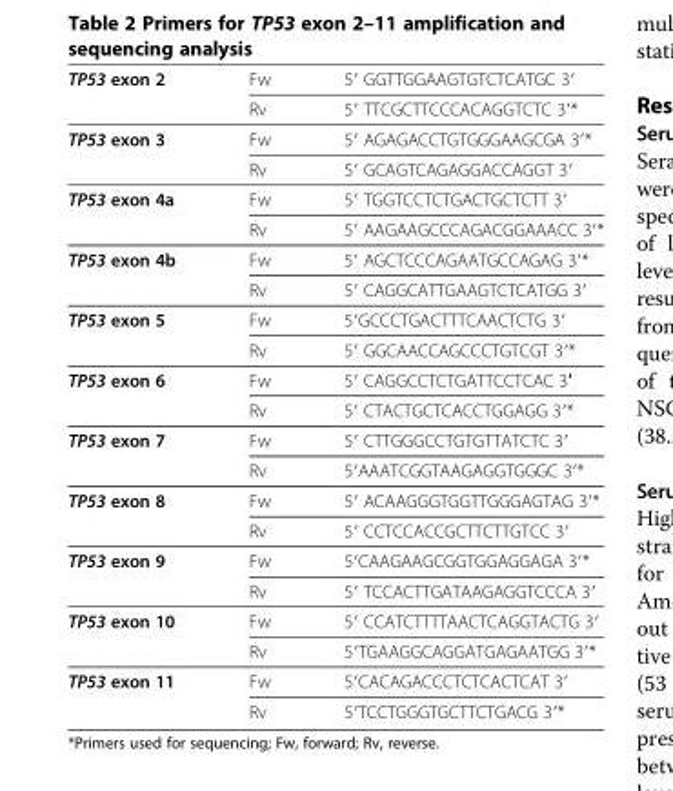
<table><tbody><tr><td rowspan="2">TP53 exon 2</td><td>Fw</td><td>5′ GGTTGGAAGTGTCTCATGC 3′</td></tr><tr><td>Rv</td><td>5′ TTCGCTTCCCACAGGTCTC 3′*</td></tr><tr><td rowspan="2">TP53 exon 3</td><td>Fw</td><td>5′ AGAGACCTGTGGGAAGCGA 3′*</td></tr><tr><td>Rv</td><td>5′ GCAGTCAGAGGACCAGGT 3′</td></tr><tr><td rowspan="2">TP53 exon 4a</td><td>Fw</td><td>5′ TGGTCCTCTGACTGCTCTT 3′</td></tr><tr><td>Rv</td><td>5′ AAGAAGCCCAGACGGAAACC 3′*</td></tr><tr><td rowspan="2">TP53 exon 4b</td><td>Fw</td><td>5′ AGCTCCCAGAATGCCAGAG 3′*</td></tr><tr><td>Rv</td><td>5′ CAGGCATTGAAGTCTCATGG 3′</td></tr><tr><td rowspan="2">TP53 exon 5</td><td>Fw</td><td>5′GCCCTGACTTTCAACTCTG 3′</td></tr><tr><td>Rv</td><td>5′ GGCAACCAGCCCTGTCGT 3′*</td></tr><tr><td rowspan="2">TP53 exon 6</td><td>Fw</td><td>5′ CAGGCCTCTGATTCCTCAC 3′</td></tr><tr><td>Rv</td><td>5′ CTACTGCTCACCTGGAGG 3′*</td></tr><tr><td rowspan="2">TP53 exon 7</td><td>Fw</td><td>5′ CTTGGGCCTGTGTTATCTC 3′</td></tr><tr><td>Rv</td><td>5′AAATCGGTAAGAGGTGGGC 3′*</td></tr><tr><td rowspan="2">TP53 exon 8</td><td>Fw</td><td>5′ ACAAGGGTGGTTGGGAGTAG 3′*</td></tr><tr><td>Rv</td><td>5′ CCTCCACCGCTTCTTGTCC 3′</td></tr><tr><td rowspan="2">TP53 exon 9</td><td>Fw</td><td>5′CAAGAAGCGGTGGAGGAGA 3′*</td></tr><tr><td>Rv</td><td>5′ TCCACTTGATAAGAGGTCCCA 3′</td></tr><tr><td rowspan="2">TP53 exon 10</td><td>Fw</td><td>5′ CCATCTTTTAACTCAGGTACTG 3′</td></tr><tr><td>Rv</td><td>5′TGAAGGCAGGATGAGAATGG 3′*</td></tr><tr><td rowspan="2">TP53 exon 11</td><td>Fw</td><td>5′CACAGACCCTCTCACTCAT 3′</td></tr><tr><td>Rv</td><td>5′TCCTGGGTGCTTCTGACG 3′*</td></tr></tbody></table>